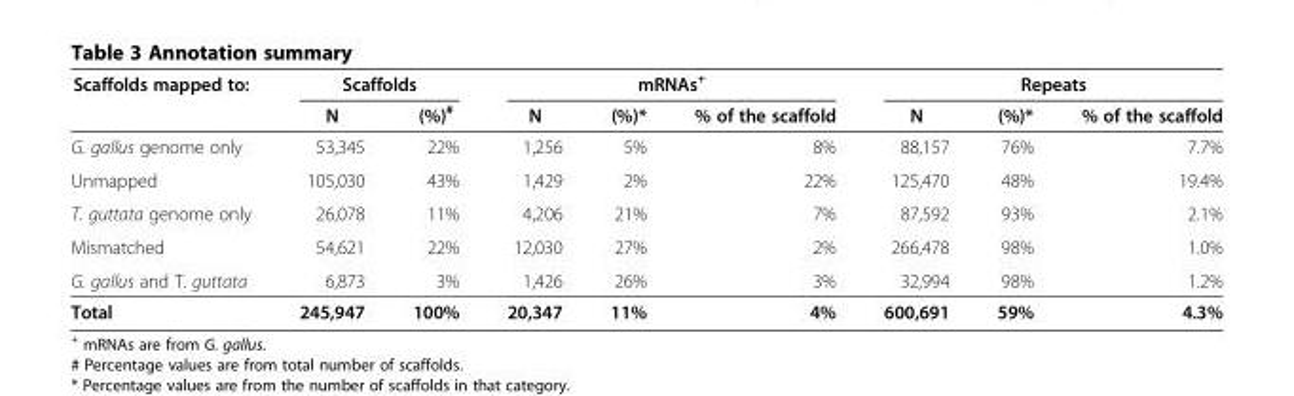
<table><thead><tr><td rowspan="2">Scaffolds mapped to:</td><td colspan="2">Scaffolds</td><td colspan="3">mRNAs<sup>+</sup></td><td colspan="3">Repeats</td></tr><tr><td>N</td><td>(%)<sup>#</sup></td><td>N</td><td>(%)*</td><td>% of the scaffold</td><td>N</td><td>(%)*</td><td>% of the scaffold</td></tr></thead><tbody><tr><td>G. gallus genome only</td><td>53,345</td><td>22%</td><td>1,256</td><td>5%</td><td>8%</td><td>88,157</td><td>76%</td><td>7.7%</td></tr><tr><td>Unmapped</td><td>105,030</td><td>43%</td><td>1,429</td><td>2%</td><td>22%</td><td>125,470</td><td>48%</td><td>19.4%</td></tr><tr><td>T. guttata genome only</td><td>26,078</td><td>11%</td><td>4,206</td><td>21%</td><td>7%</td><td>87,592</td><td>93%</td><td>2.1%</td></tr><tr><td>Mismatched</td><td>54,621</td><td>22%</td><td>12,030</td><td>27%</td><td>2%</td><td>266,478</td><td>98%</td><td>1.0%</td></tr><tr><td>G. gallus and T. guttata</td><td>6,873</td><td>3%</td><td>1,426</td><td>26%</td><td>3%</td><td>32,994</td><td>98%</td><td>1.2%</td></tr><tr><td>Total</td><td>245,947</td><td>100%</td><td>20,347</td><td>11%</td><td>4%</td><td>600,691</td><td>59%</td><td>4.3%</td></tr></tbody></table>